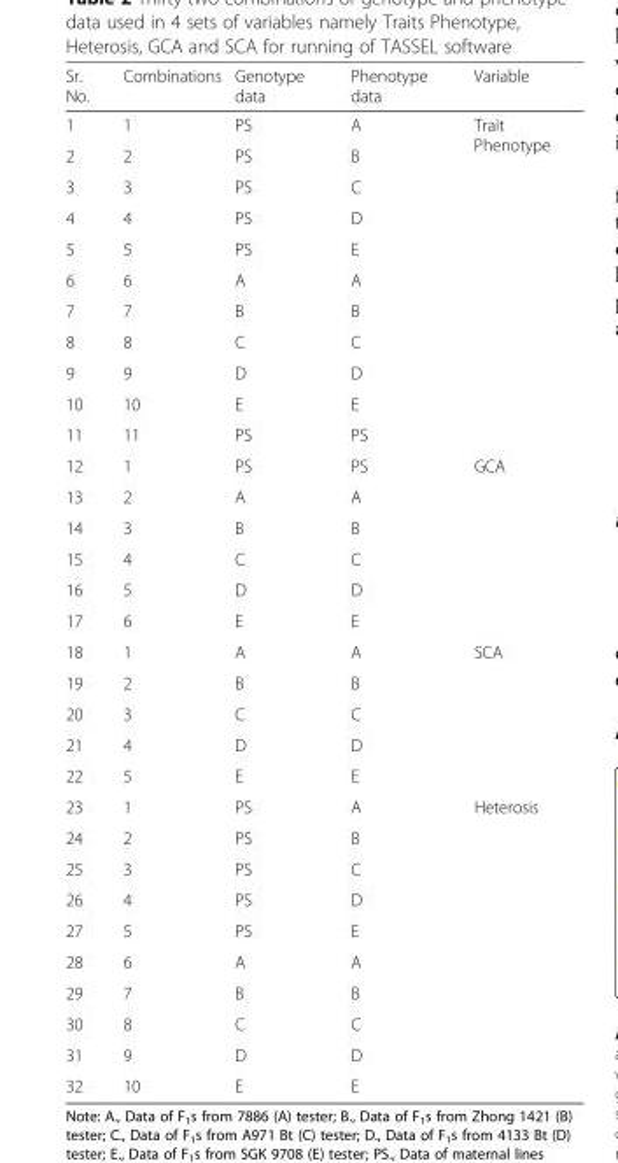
<table><thead><tr><td>Sr. No.</td><td>Combinations</td><td>Genotype data</td><td>Phenotype data</td><td>Variable</td></tr></thead><tbody><tr><td>1</td><td>1</td><td>PS</td><td>A</td><td rowspan="11">Trait Phenotype</td></tr><tr><td>2</td><td>2</td><td>PS</td><td>B</td></tr><tr><td>3</td><td>3</td><td>PS</td><td>C</td></tr><tr><td>4</td><td>4</td><td>PS</td><td>D</td></tr><tr><td>5</td><td>5</td><td>PS</td><td>E</td></tr><tr><td>6</td><td>6</td><td>A</td><td>A</td></tr><tr><td>7</td><td>7</td><td>B</td><td>B</td></tr><tr><td>8</td><td>8</td><td>C</td><td>C</td></tr><tr><td>9</td><td>9</td><td>D</td><td>D</td></tr><tr><td>10</td><td>10</td><td>E</td><td>E</td></tr><tr><td>11</td><td>11</td><td>PS</td><td>PS</td></tr><tr><td>12</td><td>1</td><td>PS</td><td>PS</td><td rowspan="6">GCA</td></tr><tr><td>13</td><td>2</td><td>A</td><td>A</td></tr><tr><td>14</td><td>3</td><td>B</td><td>B</td></tr><tr><td>15</td><td>4</td><td>C</td><td>C</td></tr><tr><td>16</td><td>5</td><td>D</td><td>D</td></tr><tr><td>17</td><td>6</td><td>E</td><td>E</td></tr><tr><td>18</td><td>1</td><td>A</td><td>A</td><td rowspan="5">SCA</td></tr><tr><td>19</td><td>2</td><td>B</td><td>B</td></tr><tr><td>20</td><td>3</td><td>C</td><td>C</td></tr><tr><td>21</td><td>4</td><td>D</td><td>D</td></tr><tr><td>22</td><td>5</td><td>E</td><td>E</td></tr><tr><td>23</td><td>1</td><td>PS</td><td>A</td><td rowspan="10">Heterosis</td></tr><tr><td>24</td><td>2</td><td>PS</td><td>B</td></tr><tr><td>25</td><td>3</td><td>PS</td><td>C</td></tr><tr><td>26</td><td>4</td><td>PS</td><td>D</td></tr><tr><td>27</td><td>5</td><td>PS</td><td>E</td></tr><tr><td>28</td><td>6</td><td>A</td><td>A</td></tr><tr><td>29</td><td>7</td><td>B</td><td>B</td></tr><tr><td>30</td><td>8</td><td>C</td><td>C</td></tr><tr><td>31</td><td>9</td><td>D</td><td>D</td></tr><tr><td>32</td><td>10</td><td>E</td><td>E</td></tr></tbody></table>